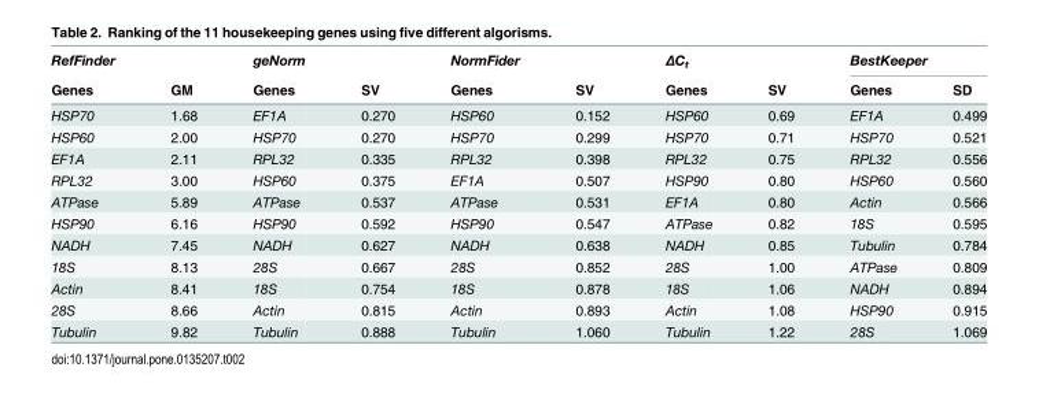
<table><thead><tr><td rowspan="2">RefFinder Genes</td><td rowspan="2">GM</td><td rowspan="2">geNorm Genes</td><td rowspan="2">SV</td><td rowspan="2">NormFider Genes</td><td rowspan="2">SV</td><td rowspan="2">ΔC<sub>t</sub> Genes</td><td rowspan="2">SV</td><td colspan="2">BestKeeper</td></tr><tr><td>Genes</td><td>SD</td></tr></thead><tbody><tr><td>HSP70</td><td>1.68</td><td>EF1A</td><td>0.270</td><td>HSP60</td><td>0.152</td><td>HSP60</td><td>0.69</td><td>EF1A</td><td>0.499</td></tr><tr><td>HSP60</td><td>2.00</td><td>HSP70</td><td>0.270</td><td>HSP70</td><td>0.299</td><td>HSP70</td><td>0.71</td><td>HSP70</td><td>0.521</td></tr><tr><td>EF1A</td><td>2.11</td><td>RPL32</td><td>0.335</td><td>RPL32</td><td>0.398</td><td>RPL32</td><td>0.75</td><td>RPL32</td><td>0.556</td></tr><tr><td>RPL32</td><td>3.00</td><td>HSP60</td><td>0.375</td><td>EF1A</td><td>0.507</td><td>HSP90</td><td>0.80</td><td>HSP60</td><td>0.560</td></tr><tr><td>ATPase</td><td>5.89</td><td>ATPase</td><td>0.537</td><td>ATPase</td><td>0.531</td><td>EF1A</td><td>0.80</td><td>Actin</td><td>0.566</td></tr><tr><td>HSP90</td><td>6.16</td><td>HSP90</td><td>0.592</td><td>HSP90</td><td>0.547</td><td>ATPase</td><td>0.82</td><td>18S</td><td>0.595</td></tr><tr><td>NADH</td><td>7.45</td><td>NADH</td><td>0.627</td><td>NADH</td><td>0.638</td><td>NADH</td><td>0.85</td><td>Tubulin</td><td>0.784</td></tr><tr><td>18S</td><td>8.13</td><td>28S</td><td>0.667</td><td>28S</td><td>0.852</td><td>28S</td><td>1.00</td><td>ATPase</td><td>0.809</td></tr><tr><td>Actin</td><td>8.41</td><td>18S</td><td>0.754</td><td>18S</td><td>0.878</td><td>18S</td><td>1.06</td><td>NADH</td><td>0.894</td></tr><tr><td>28S</td><td>8.66</td><td>Actin</td><td>0.815</td><td>Actin</td><td>0.893</td><td>Actin</td><td>1.08</td><td>HSP90</td><td>0.915</td></tr><tr><td>Tubulin</td><td>9.82</td><td>Tubulin</td><td>0.888</td><td>Tubulin</td><td>1.060</td><td>Tubulin</td><td>1.22</td><td>28S</td><td>1.069</td></tr></tbody></table>